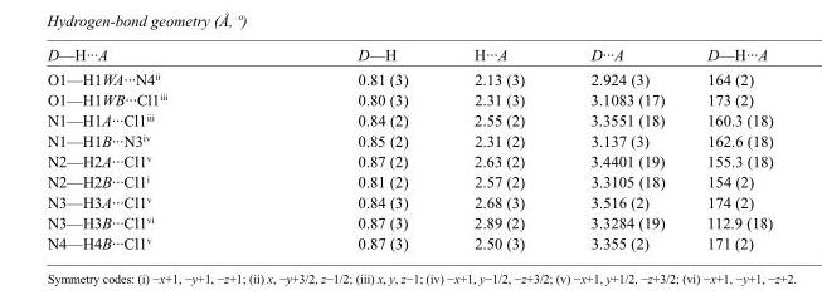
<table><tbody><tr><td>D—H···A</td><td>D—H</td><td>H···A</td><td>D···A</td><td>D—H···A</td></tr><tr><td>O1—H1WA···N4<sup>ii</sup></td><td>0.81 (3)</td><td>2.13 (3)</td><td>2.924 (3)</td><td>164 (2)</td></tr><tr><td>O1—H1WB···Cl1<sup>iii</sup></td><td>0.80 (3)</td><td>2.31 (3)</td><td>3.1083 (17)</td><td>173 (2)</td></tr><tr><td>N1—H1A···Cl1<sup>iii</sup></td><td>0.84 (2)</td><td>2.55 (2)</td><td>3.3551 (18)</td><td>160.3 (18)</td></tr><tr><td>N1—H1B···N3<sup>iv</sup></td><td>0.85 (2)</td><td>2.31 (2)</td><td>3.137 (3)</td><td>162.6 (18)</td></tr><tr><td>N2—H2A···Cl1<sup>v</sup></td><td>0.87 (2)</td><td>2.63 (2)</td><td>3.4401 (19)</td><td>155.3 (18)</td></tr><tr><td>N2—H2B···Cl1<sup>i</sup></td><td>0.81 (2)</td><td>2.57 (2)</td><td>3.3105 (18)</td><td>154 (2)</td></tr><tr><td>N3—H3A···Cl1<sup>v</sup></td><td>0.84 (3)</td><td>2.68 (3)</td><td>3.516 (2)</td><td>174 (2)</td></tr><tr><td>N3—H3B···Cl1<sup>vi</sup></td><td>0.87 (3)</td><td>2.89 (2)</td><td>3.3284 (19)</td><td>112.9 (18)</td></tr><tr><td>N4—H4B···Cl1<sup>v</sup></td><td>0.87 (3)</td><td>2.50 (3)</td><td>3.355 (2)</td><td>171 (2)</td></tr></tbody></table>